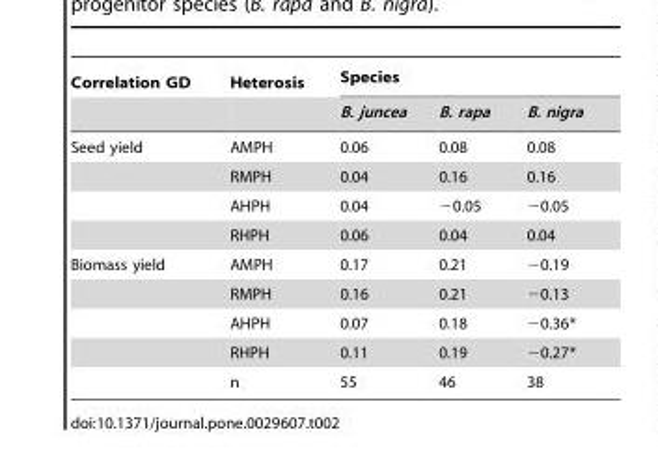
<table><thead><tr><td rowspan="2">Correlation GD</td><td rowspan="2">Heterosis</td><td colspan="3">Species</td></tr><tr><td>B. juncea</td><td>B. rapa</td><td>B. nigra</td></tr></thead><tbody><tr><td rowspan="4">Seed yield</td><td>AMPH</td><td>0.06</td><td>0.08</td><td>0.08</td></tr><tr><td>RMPH</td><td>0.04</td><td>0.16</td><td>0.16</td></tr><tr><td>AHPH</td><td>0.04</td><td>−0.05</td><td>−0.05</td></tr><tr><td>RHPH</td><td>0.06</td><td>0.04</td><td>0.04</td></tr><tr><td rowspan="5">Biomass yield</td><td>AMPH</td><td>0.17</td><td>0.21</td><td>−0.19</td></tr><tr><td>RMPH</td><td>0.16</td><td>0.21</td><td>−0.13</td></tr><tr><td>AHPH</td><td>0.07</td><td>0.18</td><td>−0.36*</td></tr><tr><td>RHPH</td><td>0.11</td><td>0.19</td><td>−0.27*</td></tr><tr><td>n</td><td>55</td><td>46</td><td>38</td></tr></tbody></table>